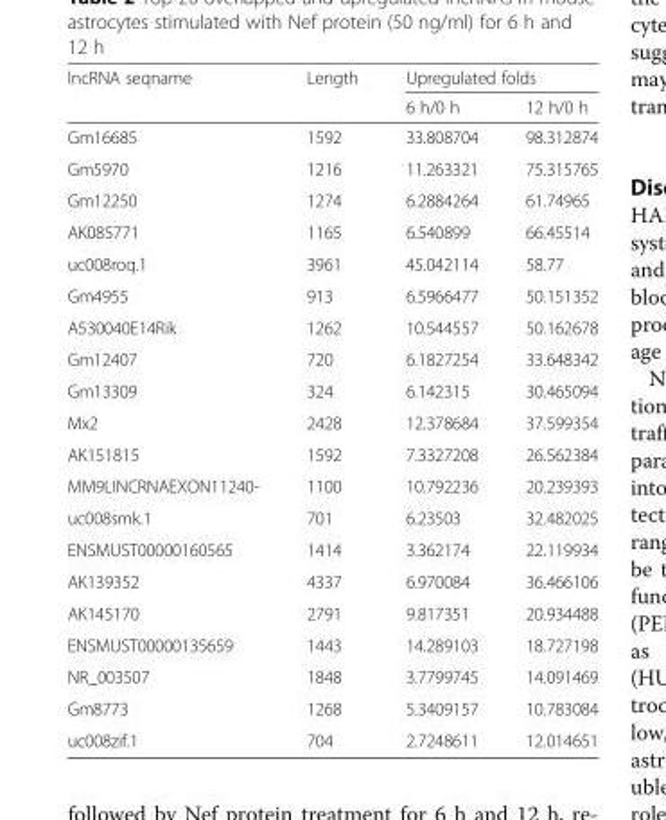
<table><thead><tr><td rowspan="2">lncRNA seqname</td><td rowspan="2">Length</td><td colspan="2">Upregulated folds</td></tr><tr><td>6 h/0 h</td><td>12 h/0 h</td></tr></thead><tbody><tr><td>Gm16685</td><td>1592</td><td>33.808704</td><td>98.312874</td></tr><tr><td>Gm5970</td><td>1216</td><td>11.263321</td><td>75.315765</td></tr><tr><td>Gm12250</td><td>1274</td><td>6.2884264</td><td>61.74965</td></tr><tr><td>AK085771</td><td>1165</td><td>6.540899</td><td>66.45514</td></tr><tr><td>uc008roq.1</td><td>3961</td><td>45.042114</td><td>58.77</td></tr><tr><td>Gm4955</td><td>913</td><td>6.5966477</td><td>50.151352</td></tr><tr><td>A530040E14Rik</td><td>1262</td><td>10.544557</td><td>50.162678</td></tr><tr><td>Gm12407</td><td>720</td><td>6.1827254</td><td>33.648342</td></tr><tr><td>Gm13309</td><td>324</td><td>6.142315</td><td>30.465094</td></tr><tr><td>Mx2</td><td>2428</td><td>12.378684</td><td>37.599354</td></tr><tr><td>AK151815</td><td>1592</td><td>7.3327208</td><td>26.562384</td></tr><tr><td>MM9LINCRNAEXON11240-</td><td>1100</td><td>10.792236</td><td>20.239393</td></tr><tr><td>uc008smk.1</td><td>701</td><td>6.23503</td><td>32.482025</td></tr><tr><td>ENSMUST00000160565</td><td>1414</td><td>3.362174</td><td>22.119934</td></tr><tr><td>AK139352</td><td>4337</td><td>6.970084</td><td>36.466106</td></tr><tr><td>AK145170</td><td>2791</td><td>9.817351</td><td>20.934488</td></tr><tr><td>ENSMUST00000135659</td><td>1443</td><td>14.289103</td><td>18.727198</td></tr><tr><td>NR_003507</td><td>1848</td><td>3.7799745</td><td>14.091469</td></tr><tr><td>Gm8773</td><td>1268</td><td>5.3409157</td><td>10.783084</td></tr><tr><td>uc008zif.1</td><td>704</td><td>2.7248611</td><td>12.014651</td></tr></tbody></table>